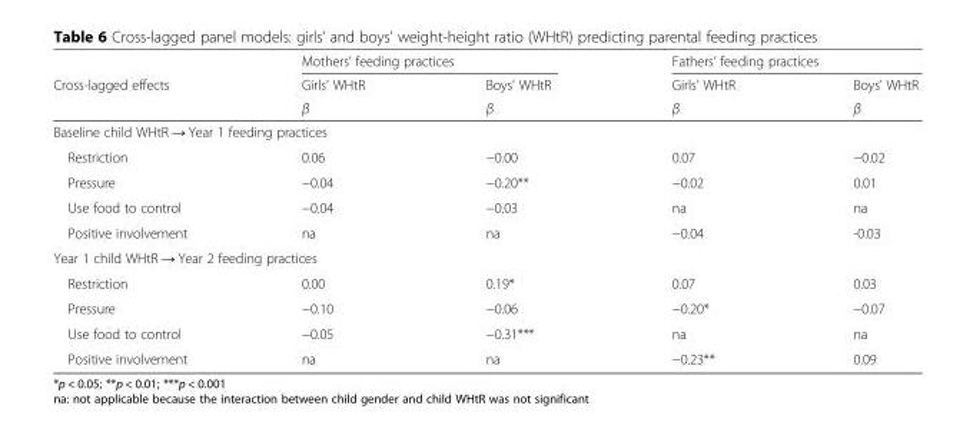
<table><thead><tr><td rowspan="3">Cross-lagged effects</td><td colspan="2">Mothers’ feeding practices</td><td colspan="2">Fathers’ feeding practices</td></tr><tr><td rowspan="2">Girls’ WHtR β</td><td rowspan="2">Boys’ WHtR β</td><td rowspan="2">Girls’ WHtR β</td><td rowspan="2">Boys’ WHtR β</td></tr><tr></tr></thead><tbody><tr><td colspan="5">Baseline child WHtR → Year 1 feeding practices</td></tr><tr><td>Restriction</td><td>0.06</td><td>−0.00</td><td>0.07</td><td>−0.02</td></tr><tr><td>Pressure</td><td>−0.04</td><td>−0.20**</td><td>−0.02</td><td>0.01</td></tr><tr><td>Use food to control</td><td>−0.04</td><td>−0.03</td><td>na</td><td>na</td></tr><tr><td>Positive involvement</td><td>na</td><td>na</td><td>−0.04</td><td>-0.03</td></tr><tr><td colspan="5">Year 1 child WHtR → Year 2 feeding practices</td></tr><tr><td>Restriction</td><td>0.00</td><td>0.19*</td><td>0.07</td><td>0.03</td></tr><tr><td>Pressure</td><td>−0.10</td><td>−0.06</td><td>−0.20*</td><td>−0.07</td></tr><tr><td>Use food to control</td><td>−0.05</td><td>−0.31***</td><td>na</td><td>na</td></tr><tr><td>Positive involvement</td><td>na</td><td>na</td><td>−0.23**</td><td>0.09</td></tr></tbody></table>